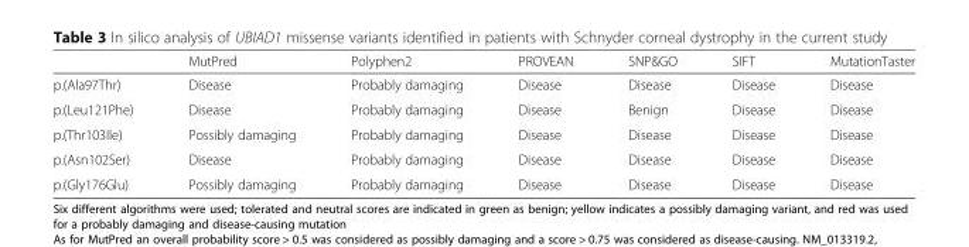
<table><thead><tr><td></td><td>MutPred</td><td>Polyphen2</td><td>PROVEAN</td><td>SNP&amp;GO</td><td>SIFT</td><td>MutationTaster</td></tr></thead><tbody><tr><td>p.(Ala97Thr)</td><td>Disease</td><td>Probably damaging</td><td>Disease</td><td>Disease</td><td>Disease</td><td>Disease</td></tr><tr><td>p.(Leu121Phe)</td><td>Disease</td><td>Probably damaging</td><td>Disease</td><td>Benign</td><td>Disease</td><td>Disease</td></tr><tr><td>p.(Thr103Ile)</td><td>Possibly damaging</td><td>Probably damaging</td><td>Disease</td><td>Disease</td><td>Disease</td><td>Disease</td></tr><tr><td>p.(Asn102Ser)</td><td>Disease</td><td>Probably damaging</td><td>Disease</td><td>Disease</td><td>Disease</td><td>Disease</td></tr><tr><td>p.(Gly176Glu)</td><td>Possibly damaging</td><td>Probably damaging</td><td>Disease</td><td>Disease</td><td>Disease</td><td>Disease</td></tr></tbody></table>